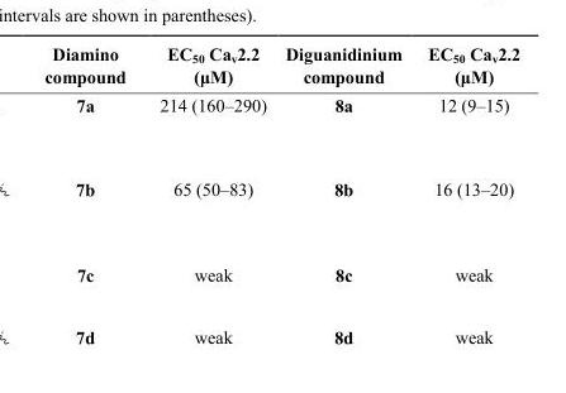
<table><tbody><tr><td>Diamino compound</td><td>EC<sub>50</sub> Ca<sub>v</sub>2.2 (μM)</td><td>Diguanidinium compound</td><td>EC<sub>50</sub> Ca<sub>v</sub>2.2 (μM)</td></tr><tr><td>7a</td><td>214 (160–290)</td><td>8a</td><td>12 (9–15)</td></tr><tr><td>7b</td><td>65 (50–83)</td><td>8b</td><td>16 (13–20)</td></tr><tr><td>7c</td><td>weak</td><td>8c</td><td>weak</td></tr><tr><td>7d</td><td>weak</td><td>8d</td><td>weak</td></tr></tbody></table>